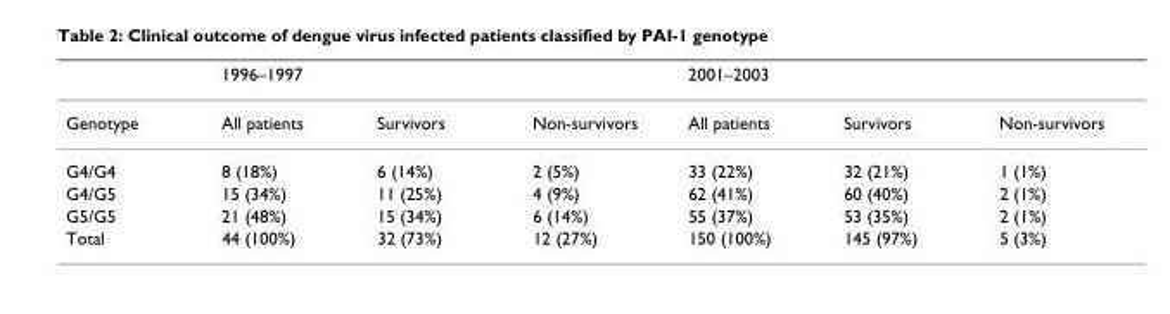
<table><thead><tr><td rowspan="2">Genotype</td><td colspan="3">1996–1997</td><td colspan="3">2001–2003</td></tr><tr><td>All patients</td><td>Survivors</td><td>Non-survivors</td><td>All patients</td><td>Survivors</td><td>Non-survivors</td></tr></thead><tbody><tr><td>G4/G4</td><td>8 (18%)</td><td>6 (14%)</td><td>2 (5%)</td><td>33 (22%)</td><td>32 (21%)</td><td>1 (1%)</td></tr><tr><td>G4/G5</td><td>15 (34%)</td><td>11 (25%)</td><td>4 (9%)</td><td>62 (41%)</td><td>60 (40%)</td><td>2 (1%)</td></tr><tr><td>G5/G5</td><td>21 (48%)</td><td>15 (34%)</td><td>6 (14%)</td><td>55 (37%)</td><td>53 (35%)</td><td>2 (1%)</td></tr><tr><td>Total</td><td>44 (100%)</td><td>32 (73%)</td><td>12 (27%)</td><td>150 (100%)</td><td>145 (97%)</td><td>5 (3%)</td></tr></tbody></table>